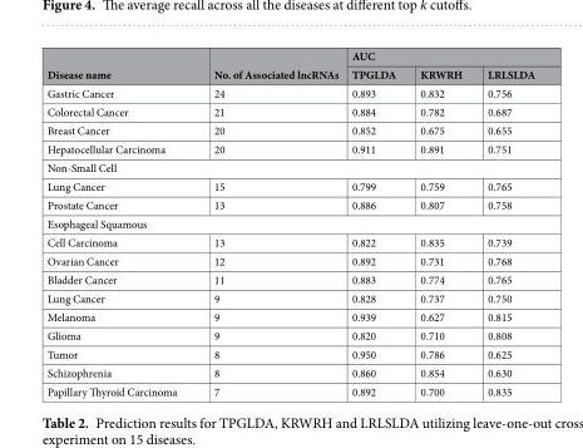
<table><thead><tr><td rowspan="2">Disease name</td><td rowspan="2">No. of Associated lncRNAs</td><td colspan="3">AUC</td></tr><tr><td>TPGLDA</td><td>KRWRH</td><td>LRLSLDA</td></tr></thead><tbody><tr><td>Gastric Cancer</td><td>24</td><td>0.893</td><td>0.832</td><td>0.756</td></tr><tr><td>Colorectal Cancer</td><td>21</td><td>0.884</td><td>0.782</td><td>0.687</td></tr><tr><td>Breast Cancer</td><td>20</td><td>0.852</td><td>0.675</td><td>0.655</td></tr><tr><td>Hepatocellular Carcinoma</td><td>20</td><td>0.911</td><td>0.891</td><td>0.751</td></tr><tr><td colspan="5">Non-Small Cell</td></tr><tr><td>Lung Cancer</td><td>15</td><td>0.799</td><td>0.759</td><td>0.765</td></tr><tr><td>Prostate Cancer</td><td>13</td><td>0.886</td><td>0.807</td><td>0.758</td></tr><tr><td colspan="5">Esophageal Squamous</td></tr><tr><td>Cell Carcinoma</td><td>13</td><td>0.822</td><td>0.835</td><td>0.739</td></tr><tr><td>Ovarian Cancer</td><td>12</td><td>0.892</td><td>0.731</td><td>0.768</td></tr><tr><td>Bladder Cancer</td><td>11</td><td>0.883</td><td>0.774</td><td>0.765</td></tr><tr><td>Lung Cancer</td><td>9</td><td>0.828</td><td>0.737</td><td>0.750</td></tr><tr><td>Melanoma</td><td>9</td><td>0.939</td><td>0.627</td><td>0.815</td></tr><tr><td>Glioma</td><td>9</td><td>0.820</td><td>0.710</td><td>0.808</td></tr><tr><td>Tumor</td><td>8</td><td>0.950</td><td>0.786</td><td>0.625</td></tr><tr><td>Schizophrenia</td><td>8</td><td>0.860</td><td>0.854</td><td>0.630</td></tr><tr><td>Papillary Thyroid Carcinoma</td><td>7</td><td>0.892</td><td>0.700</td><td>0.835</td></tr></tbody></table>